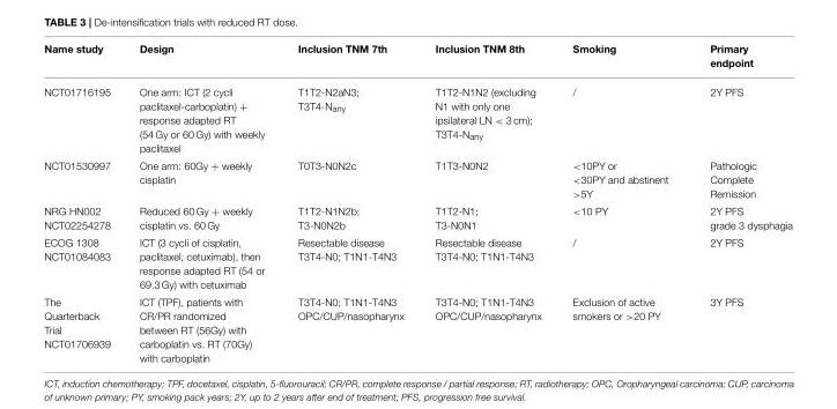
<table><thead><tr><td>Name study</td><td>Design</td><td>Inclusion TNM 7th</td><td>Inclusion TNM 8th</td><td>Smoking</td><td>Primary endpoint</td></tr></thead><tbody><tr><td>NCT01716195</td><td>One arm: ICT (2 cycli paclitaxel-carboplatin) + response adapted RT (54 Gy or 60 Gy) with weekly paclitaxel</td><td>T1T2-N2aN3; T3T4-N<sub>any</sub></td><td>T1T2-N1N2 (excluding N1 with only one ipsilateral LN &lt; 3 cm); T3T4-N<sub>any</sub></td><td>/</td><td>2Y PFS</td></tr><tr><td>NCT01530997</td><td>One arm: 60Gy + weekly cisplatin</td><td>T0T3-N0N2c</td><td>T1T3-N0N2</td><td>&lt;10PY or &lt;30PY and abstinent &gt;5Y</td><td>Pathologic Complete Remission</td></tr><tr><td>NRG HN002 NCT02254278</td><td>Reduced 60 Gy + weekly cisplatin vs. 60 Gy</td><td>T1T2-N1N2b; T3-N0N2b</td><td>T1T2-N1; T3-N0N1</td><td>&lt;10 PY</td><td>2Y PFS grade 3 dysphagia</td></tr><tr><td>ECOG 1308 NCT01084083</td><td>ICT (3 cycli of cisplatin, paclitaxel, cetuximab), then response adapted RT (54 or 69.3 Gy) with cetuximab</td><td>Resectable disease T3T4-N0; T1N1-T4N3</td><td>Resectable disease T3T4-N0; T1N1-T4N3</td><td>/</td><td>2Y PFS</td></tr><tr><td>The Quarterback Trial NCT01706939</td><td>ICT (TPF), patients with CR/PR randomized between RT (56Gy) with carboplatin vs. RT (70Gy) with carboplatin</td><td>T3T4-N0; T1N1-T4N3 OPC/CUP/nasopharynx</td><td>T3T4-N0; T1N1-T4N3 OPC/CUP/nasopharynx</td><td>Exclusion of active smokers or &gt;20 PY</td><td>3Y PFS</td></tr></tbody></table>